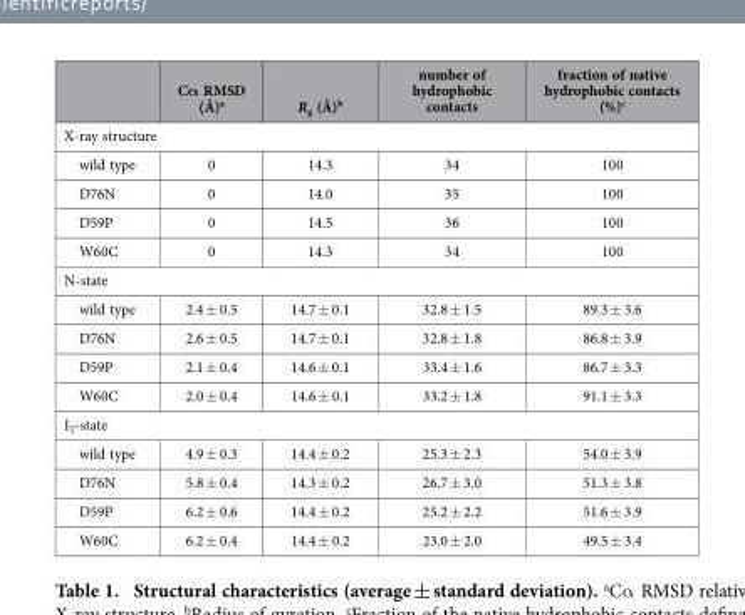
<table><thead><tr><td></td><td>Cα RMSD (Å)<sup>a</sup></td><td>R<sub>g</sub> (Å)<sup>b</sup></td><td>number of hydrophobic contacts</td><td>fraction of native hydrophobic contacts (%)<sup>c</sup></td></tr></thead><tbody><tr><td colspan="5">X-ray structure</td></tr><tr><td>wild type</td><td>0</td><td>14.3</td><td>34</td><td>100</td></tr><tr><td>D76N</td><td>0</td><td>14.0</td><td>35</td><td>100</td></tr><tr><td>D59P</td><td>0</td><td>14.5</td><td>36</td><td>100</td></tr><tr><td>W60C</td><td>0</td><td>14.3</td><td>34</td><td>100</td></tr><tr><td colspan="5">N-state</td></tr><tr><td>wild type</td><td>2.4 ± 0.5</td><td>14.7 ± 0.1</td><td>32.8 ± 1.5</td><td>89.3 ± 3.6</td></tr><tr><td>D76N</td><td>2.6 ± 0.5</td><td>14.7 ± 0.1</td><td>32.8 ± 1.8</td><td>86.8 ± 3.9</td></tr><tr><td>D59P</td><td>2.1 ± 0.4</td><td>14.6 ± 0.1</td><td>33.4 ± 1.6</td><td>86.7 ± 3.3</td></tr><tr><td>W60C</td><td>2.0 ± 0.4</td><td>14.6 ± 0.1</td><td>33.2 ± 1.8</td><td>91.1 ± 3.3</td></tr><tr><td colspan="5">I<sub>T</sub>-state</td></tr><tr><td>wild type</td><td>4.9 ± 0.3</td><td>14.4 ± 0.2</td><td>25.3 ± 2.3</td><td>54.0 ± 3.9</td></tr><tr><td>D76N</td><td>5.8 ± 0.4</td><td>14.3 ± 0.2</td><td>26.7 ± 3.0</td><td>51.3 ± 3.8</td></tr><tr><td>D59P</td><td>6.2 ± 0.6</td><td>14.4 ± 0.2</td><td>25.2 ± 2.2</td><td>51.6 ± 3.9</td></tr><tr><td>W60C</td><td>6.2 ± 0.4</td><td>14.4 ± 0.2</td><td>23.0 ± 2.0</td><td>49.5 ± 3.4</td></tr></tbody></table>